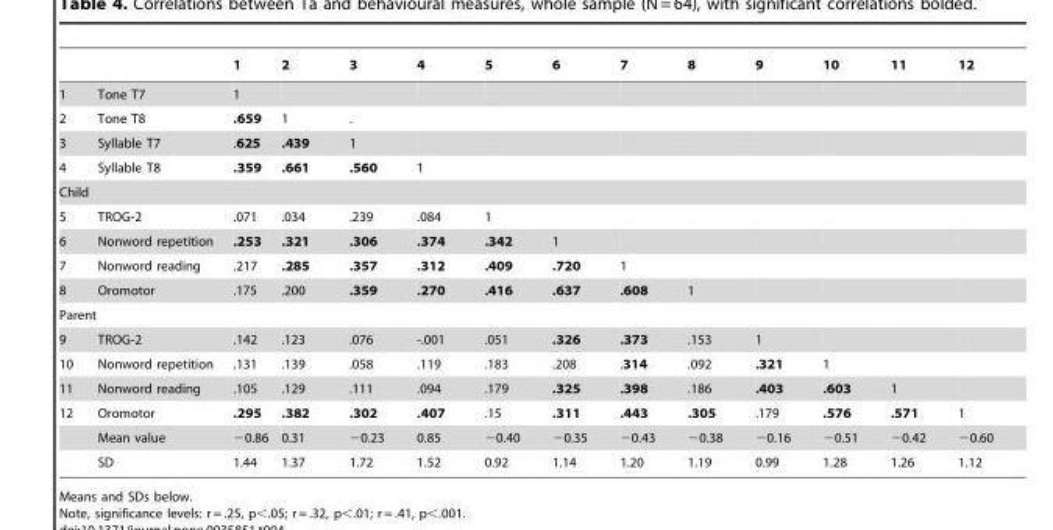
<table><thead><tr><td></td><td></td><td>1</td><td>2</td><td>3</td><td>4</td><td>5</td><td>6</td><td>7</td><td>8</td><td>9</td><td>10</td><td>11</td><td>12</td></tr></thead><tbody><tr><td>1</td><td>Tone T7</td><td>1</td><td></td><td></td><td></td><td></td><td></td><td></td><td></td><td></td><td></td><td></td><td></td></tr><tr><td>2</td><td>Tone T8</td><td>.659</td><td>1</td><td>.</td><td></td><td></td><td></td><td></td><td></td><td></td><td></td><td></td><td></td></tr><tr><td>3</td><td>Syllable T7</td><td>.625</td><td>.439</td><td>1</td><td></td><td></td><td></td><td></td><td></td><td></td><td></td><td></td><td></td></tr><tr><td>4</td><td>Syllable T8</td><td>.359</td><td>.661</td><td>.560</td><td>1</td><td></td><td></td><td></td><td></td><td></td><td></td><td></td><td></td></tr><tr><td colspan="14">Child</td></tr><tr><td>5</td><td>TROG-2</td><td>.071</td><td>.034</td><td>.239</td><td>.084</td><td>1</td><td></td><td></td><td></td><td></td><td></td><td></td><td></td></tr><tr><td>6</td><td>Nonword repetition</td><td>.253</td><td>.321</td><td>.306</td><td>.374</td><td>.342</td><td>1</td><td></td><td></td><td></td><td></td><td></td><td></td></tr><tr><td>7</td><td>Nonword reading</td><td>.217</td><td>.285</td><td>.357</td><td>.312</td><td>.409</td><td>.720</td><td>1</td><td></td><td></td><td></td><td></td><td></td></tr><tr><td>8</td><td>Oromotor</td><td>.175</td><td>.200</td><td>.359</td><td>.270</td><td>.416</td><td>.637</td><td>.608</td><td>1</td><td></td><td></td><td></td><td></td></tr><tr><td colspan="14">Parent</td></tr><tr><td>9</td><td>TROG-2</td><td>.142</td><td>.123</td><td>.076</td><td>-.001</td><td>.051</td><td>.326</td><td>.373</td><td>.153</td><td>1</td><td></td><td></td><td></td></tr><tr><td>10</td><td>Nonword repetition</td><td>.131</td><td>.139</td><td>.058</td><td>.119</td><td>.183</td><td>.208</td><td>.314</td><td>.092</td><td>.321</td><td>1</td><td></td><td></td></tr><tr><td>11</td><td>Nonword reading</td><td>.105</td><td>.129</td><td>.111</td><td>.094</td><td>.179</td><td>.325</td><td>.398</td><td>.186</td><td>.403</td><td>.603</td><td>1</td><td></td></tr><tr><td rowspan="3">12</td><td>Oromotor</td><td>.295</td><td>.382</td><td>.302</td><td>.407</td><td>.15</td><td>.311</td><td>.443</td><td>.305</td><td>.179</td><td>.576</td><td>.571</td><td>1</td></tr><tr><td>Mean value</td><td>−0.86</td><td>0.31</td><td>−0.23</td><td>0.85</td><td>−0.40</td><td>−0.35</td><td>−0.43</td><td>−0.38</td><td>−0.16</td><td>−0.51</td><td>−0.42</td><td>−0.60</td></tr><tr><td>SD</td><td>1.44</td><td>1.37</td><td>1.72</td><td>1.52</td><td>0.92</td><td>1.14</td><td>1.20</td><td>1.19</td><td>0.99</td><td>1.28</td><td>1.26</td><td>1.12</td></tr></tbody></table>